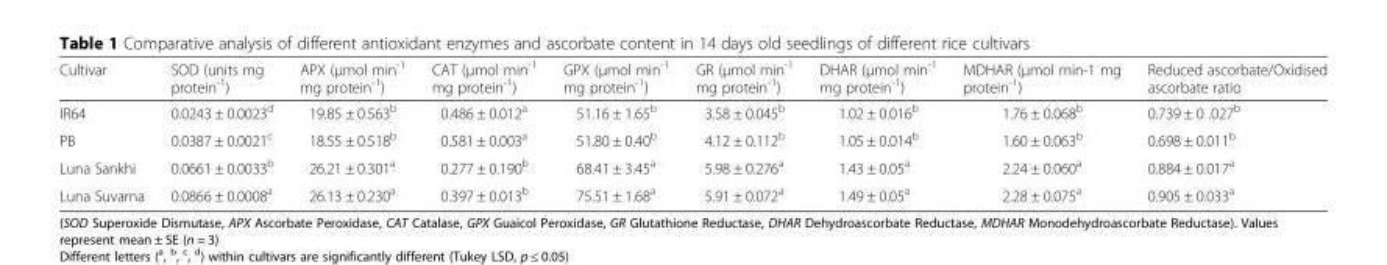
<table><thead><tr><td>Cultivar</td><td>SOD (units mg protein<sup>-1</sup>)</td><td>APX (μmol min<sup>-1</sup> mg protein<sup>-1</sup>)</td><td>CAT (μmol min<sup>-1</sup> mg protein<sup>-1</sup>)</td><td>GPX (μmol min<sup>-1</sup> mg protein<sup>-1</sup>)</td><td>GR (μmol min<sup>-1</sup> mg protein<sup>-1</sup>)</td><td>DHAR (μmol min<sup>-1</sup> mg protein<sup>-1</sup>)</td><td>MDHAR (μmol min-1 mg protein<sup>-1</sup>)</td><td>Reduced ascorbate/Oxidised ascorbate ratio</td></tr></thead><tbody><tr><td>IR64</td><td>0.0243 ± 0.0023<sup>d</sup></td><td>19.85 ± 0.563<sup>b</sup></td><td>0.486 ± 0.012<sup>a</sup></td><td>51.16 ± 1.65<sup>b</sup></td><td>3.58 ± 0.045<sup>b</sup></td><td>1.02 ± 0.016<sup>b</sup></td><td>1.76 ± 0.068<sup>b</sup></td><td>0.739 ± 0 .027<sup>b</sup></td></tr><tr><td>PB</td><td>0.0387 ± 0.0021<sup>c</sup></td><td>18.55 ± 0.518<sup>b</sup></td><td>0.581 ± 0.003<sup>a</sup></td><td>51.80 ± 0.40<sup>b</sup></td><td>4.12 ± 0.112<sup>b</sup></td><td>1.05 ± 0.014<sup>b</sup></td><td>1.60 ± 0.063<sup>b</sup></td><td>0.698 ± 0.011<sup>b</sup></td></tr><tr><td>Luna Sankhi</td><td>0.0661 ± 0.0033<sup>b</sup></td><td>26.21 ± 0.301<sup>a</sup></td><td>0.277 ± 0.190<sup>b</sup></td><td>68.41 ± 3.45<sup>a</sup></td><td>5.98 ± 0.276<sup>a</sup></td><td>1.43 ± 0.05<sup>a</sup></td><td>2.24 ± 0.060<sup>a</sup></td><td>0.884 ± 0.017<sup>a</sup></td></tr><tr><td>Luna Suvarna</td><td>0.0866 ± 0.0008<sup>a</sup></td><td>26.13 ± 0.230<sup>a</sup></td><td>0.397 ± 0.013<sup>b</sup></td><td>75.51 ± 1.68<sup>a</sup></td><td>5.91 ± 0.072<sup>a</sup></td><td>1.49 ± 0.05<sup>a</sup></td><td>2.28 ± 0.075<sup>a</sup></td><td>0.905 ± 0.033<sup>a</sup></td></tr></tbody></table>